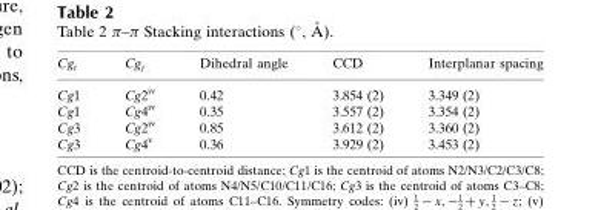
<table><tbody><tr><td>Cg<sub>i</sub></td><td>Cg<sub>j</sub></td><td>Dihedral angle</td><td>CCD</td><td>Interplanar spacing</td></tr><tr><td>Cg1</td><td>Cg2<sup>iv</sup></td><td>0.42</td><td>3.854 (2)</td><td>3.349 (2)</td></tr><tr><td>Cg1</td><td>Cg4<sup>iv</sup></td><td>0.35</td><td>3.557 (2)</td><td>3.354 (2)</td></tr><tr><td>Cg3</td><td>Cg2<sup>iv</sup></td><td>0.85</td><td>3.612 (2)</td><td>3.360 (2)</td></tr><tr><td>Cg3</td><td>Cg4<sup>v</sup></td><td>0.36</td><td>3.929 (2)</td><td>3.453 (2)</td></tr></tbody></table>